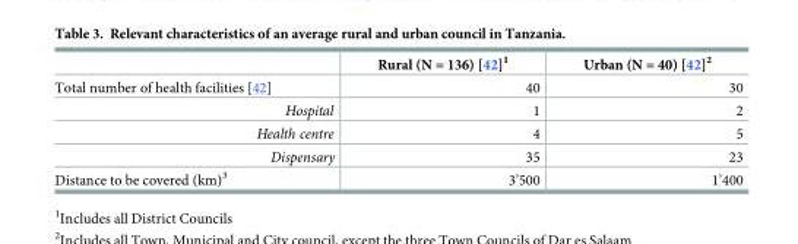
<table><thead><tr><td></td><td>Rural (N = 136) [42]<sup>1</sup></td><td>Urban (N = 40) [42]<sup>2</sup></td></tr></thead><tbody><tr><td>Total number of health facilities [42]</td><td>40</td><td>30</td></tr><tr><td>Hospital</td><td>1</td><td>2</td></tr><tr><td>Health centre</td><td>4</td><td>5</td></tr><tr><td>Dispensary</td><td>35</td><td>23</td></tr><tr><td>Distance to be covered (km)<sup>3</sup></td><td>3’500</td><td>1’400</td></tr></tbody></table>